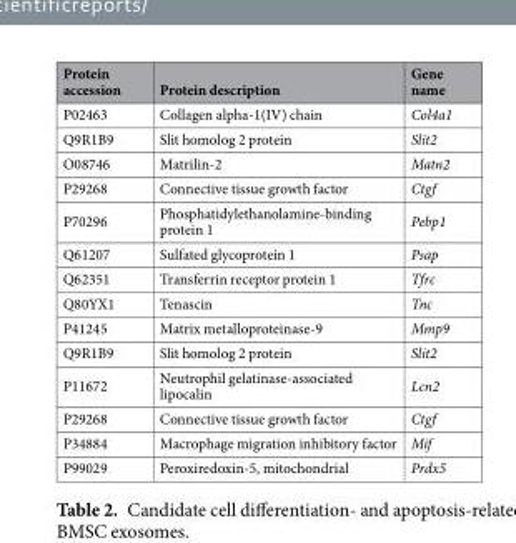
<table><thead><tr><td>Protein accession</td><td>Protein description</td><td>Gene name</td></tr></thead><tbody><tr><td>P02463</td><td>Collagen alpha-1(IV) chain</td><td>Col4a1</td></tr><tr><td>Q9R1B9</td><td>Slit homolog 2 protein</td><td>Slit2</td></tr><tr><td>O08746</td><td>Matrilin-2</td><td>Matn2</td></tr><tr><td>P29268</td><td>Connective tissue growth factor</td><td>Ctgf</td></tr><tr><td>P70296</td><td>Phosphatidylethanolamine-binding protein 1</td><td>Pebp1</td></tr><tr><td>Q61207</td><td>Sulfated glycoprotein 1</td><td>Psap</td></tr><tr><td>Q62351</td><td>Transferrin receptor protein 1</td><td>Tfrc</td></tr><tr><td>Q80YX1</td><td>Tenascin</td><td>Tnc</td></tr><tr><td>P41245</td><td>Matrix metalloproteinase-9</td><td>Mmp9</td></tr><tr><td>Q9R1B9</td><td>Slit homolog 2 protein</td><td>Slit2</td></tr><tr><td>P11672</td><td>Neutrophil gelatinase-associated lipocalin</td><td>Lcn2</td></tr><tr><td>P29268</td><td>Connective tissue growth factor</td><td>Ctgf</td></tr><tr><td>P34884</td><td>Macrophage migration inhibitory factor</td><td>Mif</td></tr><tr><td>P99029</td><td>Peroxiredoxin-5, mitochondrial</td><td>Prdx5</td></tr></tbody></table>